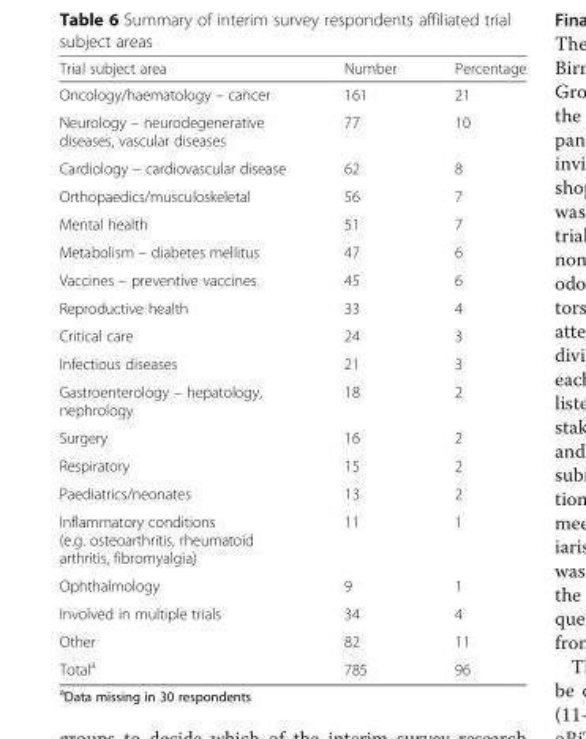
<table><thead><tr><td>Trial subject area</td><td>Number</td><td>Percentage</td></tr></thead><tbody><tr><td>Oncology/haematology – cancer</td><td>161</td><td>21</td></tr><tr><td>Neurology – neurodegenerative diseases, vascular diseases</td><td>77</td><td>10</td></tr><tr><td>Cardiology – cardiovascular disease</td><td>62</td><td>8</td></tr><tr><td>Orthopaedics/musculoskeletal</td><td>56</td><td>7</td></tr><tr><td>Mental health</td><td>51</td><td>7</td></tr><tr><td>Metabolism – diabetes mellitus</td><td>47</td><td>6</td></tr><tr><td>Vaccines – preventive vaccines</td><td>45</td><td>6</td></tr><tr><td>Reproductive health</td><td>33</td><td>4</td></tr><tr><td>Critical care</td><td>24</td><td>3</td></tr><tr><td>Infectious diseases</td><td>21</td><td>3</td></tr><tr><td>Gastroenterology – hepatology, nephrology</td><td>18</td><td>2</td></tr><tr><td>Surgery</td><td>16</td><td>2</td></tr><tr><td>Respiratory</td><td>15</td><td>2</td></tr><tr><td>Paediatrics/neonates</td><td>13</td><td>2</td></tr><tr><td>Inflammatory conditions (e.g. osteoarthritis, rheumatoid arthritis, fibromyalgia)</td><td>11</td><td>1</td></tr><tr><td>Ophthalmology</td><td>9</td><td>1</td></tr><tr><td>Involved in multiple trials</td><td>34</td><td>4</td></tr><tr><td>Other</td><td>82</td><td>11</td></tr><tr><td>Total<sup>a</sup></td><td>785</td><td>96</td></tr></tbody></table>